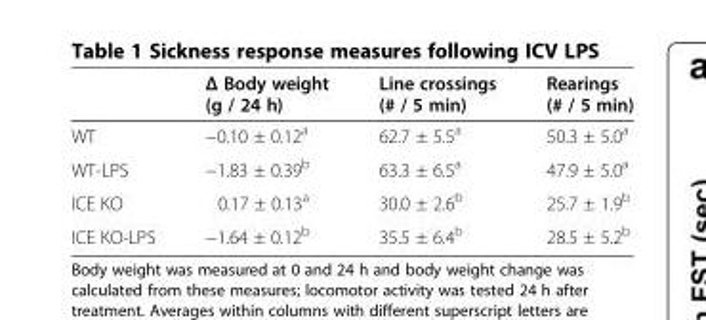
<table><thead><tr><td></td><td>Δ Body weight (g / 24 h)</td><td>Line crossings (# / 5 min)</td><td>Rearings (# / 5 min)</td></tr></thead><tbody><tr><td>WT</td><td>−0.10 ± 0.12<sup>a</sup></td><td>62.7 ± 5.5<sup>a</sup></td><td>50.3 ± 5.0<sup>a</sup></td></tr><tr><td>WT-LPS</td><td>−1.83 ± 0.39<sup>b</sup></td><td>63.3 ± 6.5<sup>a</sup></td><td>47.9 ± 5.0<sup>a</sup></td></tr><tr><td>ICE KO</td><td>0.17 ± 0.13<sup>a</sup></td><td>30.0 ± 2.6<sup>b</sup></td><td>25.7 ± 1.9<sup>b</sup></td></tr><tr><td>ICE KO-LPS</td><td>−1.64 ± 0.12<sup>b</sup></td><td>35.5 ± 6.4<sup>b</sup></td><td>28.5 ± 5.2<sup>b</sup></td></tr></tbody></table>